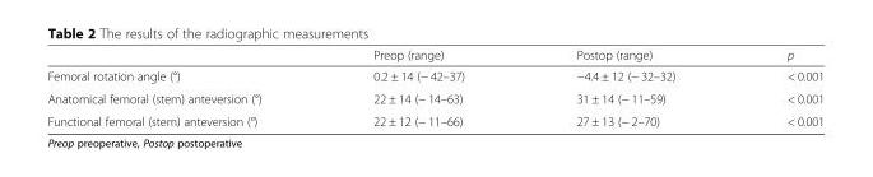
<table><thead><tr><td></td><td>Preop (range)</td><td>Postop (range)</td><td>p</td></tr></thead><tbody><tr><td>Femoral rotation angle (°)</td><td>0.2 ± 14 (− 42–37)</td><td>−4.4 ± 12 (− 32–32)</td><td>&lt; 0.001</td></tr><tr><td>Anatomical femoral (stem) anteversion (°)</td><td>22 ± 14 (− 14–63)</td><td>31 ± 14 (− 11–59)</td><td>&lt; 0.001</td></tr><tr><td>Functional femoral (stem) anteversion (°)</td><td>22 ± 12 (− 11–66)</td><td>27 ± 13 (− 2–70)</td><td>&lt; 0.001</td></tr></tbody></table>